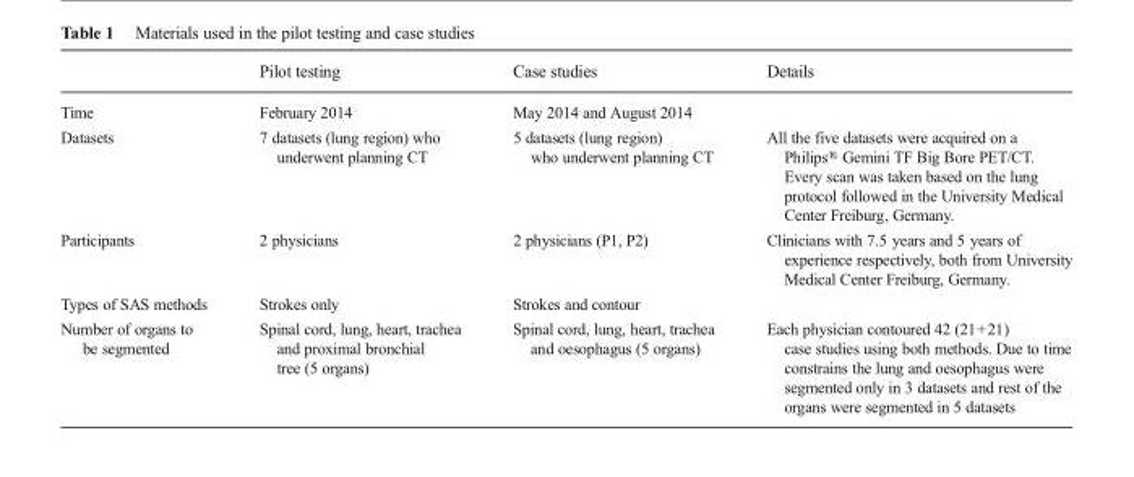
<table><thead><tr><td></td><td>Pilot testing</td><td>Case studies</td><td>Details</td></tr></thead><tbody><tr><td>Time</td><td>February 2014</td><td>May 2014 and August 2014</td><td></td></tr><tr><td>Datasets</td><td>7 datasets (lung region) who underwent planning CT</td><td>5 datasets (lung region) who underwent planning CT</td><td>All the five datasets were acquired on a Philips® Gemini TF Big Bore PET/CT. Every scan was taken based on the lung protocol followed in the University Medical Center Freiburg, Germany.</td></tr><tr><td>Participants</td><td>2 physicians</td><td>2 physicians (P1, P2)</td><td>Clinicians with 7.5 years and 5 years of experience respectively, both from University Medical Center Freiburg, Germany.</td></tr><tr><td>Types of SAS methods</td><td>Strokes only</td><td>Strokes and contour</td><td></td></tr><tr><td>Number of organs to be segmented</td><td>Spinal cord, lung, heart, trachea and proximal bronchial tree (5 organs)</td><td>Spinal cord, lung, heart, trachea and oesophagus (5 organs)</td><td>Each physician contoured 42 (21+21) case studies using both methods. Due to time constrains the lung and oesophagus were segmented only in 3 datasets and rest of the organs were segmented in 5 datasets</td></tr></tbody></table>